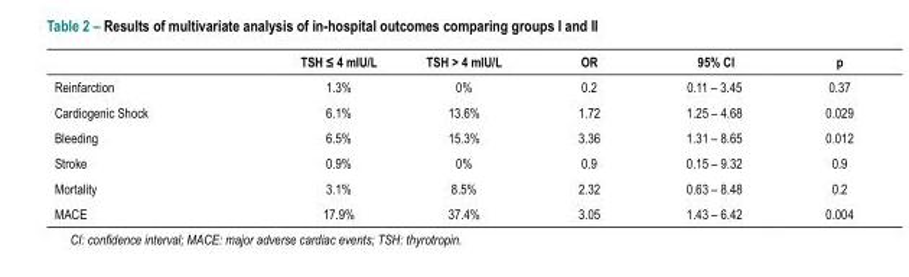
<table><thead><tr><td></td><td>TSH ≤ 4 mIU/L</td><td>TSH &gt; 4 mIU/L</td><td>OR</td><td>95% CI</td><td>p</td></tr></thead><tbody><tr><td>Reinfarction</td><td>1.3%</td><td>0%</td><td>0.2</td><td>0.11 – 3.45</td><td>0.37</td></tr><tr><td>Cardiogenic Shock</td><td>6.1%</td><td>13.6%</td><td>1.72</td><td>1.25 – 4.68</td><td>0.029</td></tr><tr><td>Bleeding</td><td>6.5%</td><td>15.3%</td><td>3.36</td><td>1.31 – 8.65</td><td>0.012</td></tr><tr><td>Stroke</td><td>0.9%</td><td>0%</td><td>0.9</td><td>0.15 – 9.32</td><td>0.9</td></tr><tr><td>Mortality</td><td>3.1%</td><td>8.5%</td><td>2.32</td><td>0.63 – 8.48</td><td>0.2</td></tr><tr><td>MACE</td><td>17.9%</td><td>37.4%</td><td>3.05</td><td>1.43 – 6.42</td><td>0.004</td></tr></tbody></table>